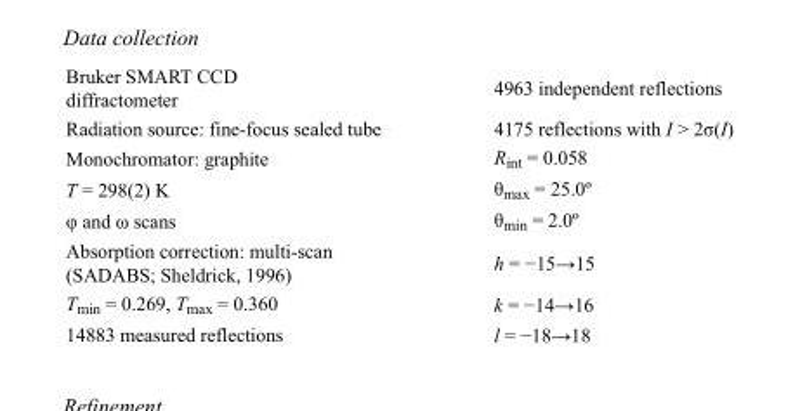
<table><tbody><tr><td>Bruker SMART CCD diffractometer</td><td>4963 independent reflections</td></tr><tr><td>Radiation source: fine-focus sealed tube</td><td>4175 reflections with I &gt; 2σ(I)</td></tr><tr><td>Monochromator: graphite</td><td>R<sub>int</sub> = 0.058</td></tr><tr><td>T = 298(2) K</td><td>θ<sub>max</sub> = 25.0º</td></tr><tr><td>φ and ω scans</td><td>θ<sub>min</sub> = 2.0º</td></tr><tr><td>Absorption correction: multi-scan (SADABS; Sheldrick, 1996)</td><td>h = −15→15</td></tr><tr><td>T<sub>min</sub> = 0.269, T<sub>max</sub> = 0.360</td><td>k = −14→16</td></tr><tr><td>14883 measured reflections</td><td>l = −18→18</td></tr></tbody></table>